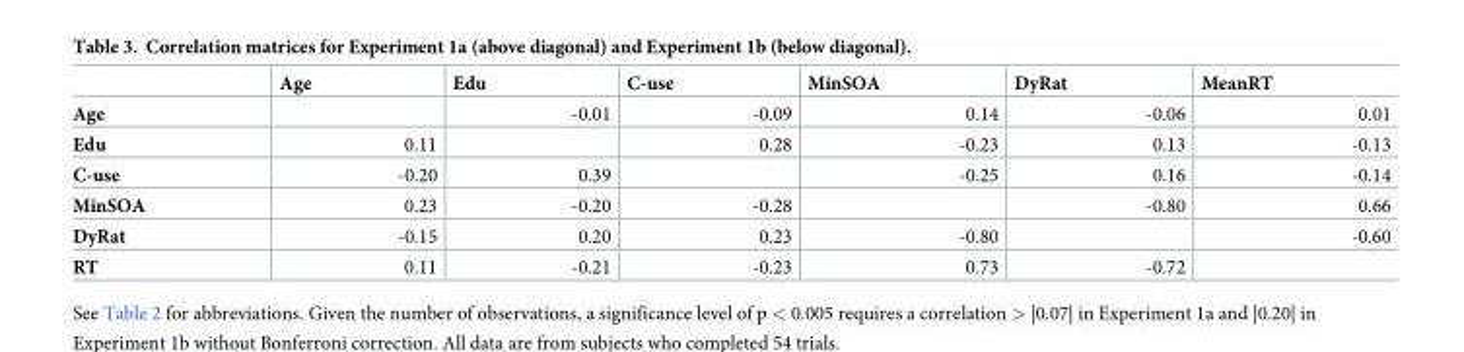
<table><thead><tr><td></td><td>Age</td><td>Edu</td><td>C-use</td><td>MinSOA</td><td>DyRat</td><td>MeanRT</td></tr></thead><tbody><tr><td>Age</td><td></td><td>-0.01</td><td>-0.09</td><td>0.14</td><td>-0.06</td><td>0.01</td></tr><tr><td>Edu</td><td>0.11</td><td></td><td>0.28</td><td>-0.23</td><td>0.13</td><td>-0.13</td></tr><tr><td>C-use</td><td>-0.20</td><td>0.39</td><td></td><td>-0.25</td><td>0.16</td><td>-0.14</td></tr><tr><td>MinSOA</td><td>0.23</td><td>-0.20</td><td>-0.28</td><td></td><td>-0.80</td><td>0.66</td></tr><tr><td>DyRat</td><td>-0.15</td><td>0.20</td><td>0.23</td><td>-0.80</td><td></td><td>-0.60</td></tr><tr><td>RT</td><td>0.11</td><td>-0.21</td><td>-0.23</td><td>0.73</td><td>-0.72</td><td></td></tr></tbody></table>